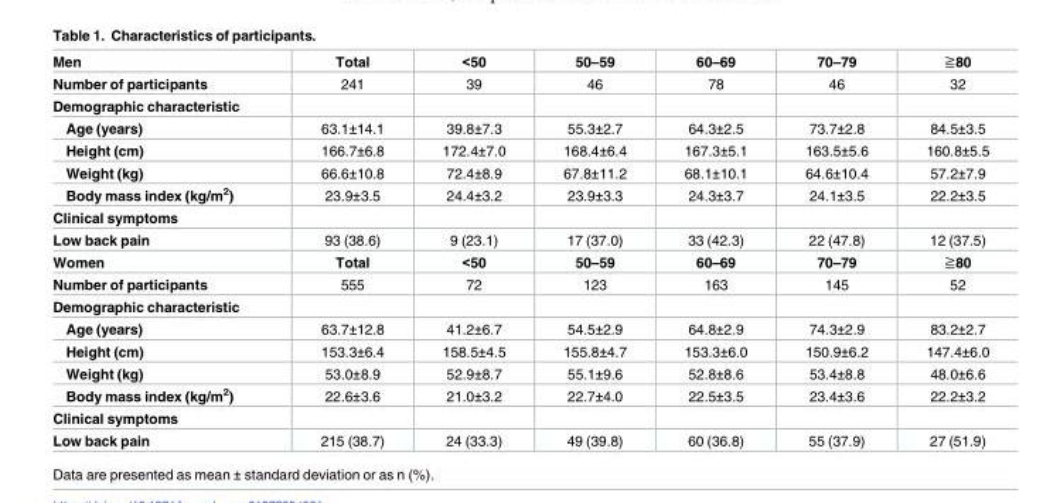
<table><tbody><tr><td>Men</td><td>Total</td><td>&lt;50</td><td>50–59</td><td>60–69</td><td>70–79</td><td>≧80</td></tr><tr><td>Number of participants</td><td>241</td><td>39</td><td>46</td><td>78</td><td>46</td><td>32</td></tr><tr><td colspan="7">Demographic characteristic</td></tr><tr><td>Age (years)</td><td>63.1±14.1</td><td>39.8±7.3</td><td>55.3±2.7</td><td>64.3±2.5</td><td>73.7±2.8</td><td>84.5±3.5</td></tr><tr><td>Height (cm)</td><td>166.7±6.8</td><td>172.4±7.0</td><td>168.4±6.4</td><td>167.3±5.1</td><td>163.5±5.6</td><td>160.8±5.5</td></tr><tr><td>Weight (kg)</td><td>66.6±10.8</td><td>72.4±8.9</td><td>67.8±11.2</td><td>68.1±10.1</td><td>64.6±10.4</td><td>57.2±7.9</td></tr><tr><td>Body mass index (kg/m<sup>2</sup>)</td><td>23.9±3.5</td><td>24.4±3.2</td><td>23.9±3.3</td><td>24.3±3.7</td><td>24.1±3.5</td><td>22.2±3.5</td></tr><tr><td colspan="7">Clinical symptoms</td></tr><tr><td>Low back pain</td><td>93 (38.6)</td><td>9 (23.1)</td><td>17 (37.0)</td><td>33 (42.3)</td><td>22 (47.8)</td><td>12 (37.5)</td></tr><tr><td>Women</td><td>Total</td><td>&lt;50</td><td>50–59</td><td>60–69</td><td>70–79</td><td>≧80</td></tr><tr><td>Number of participants</td><td>555</td><td>72</td><td>123</td><td>163</td><td>145</td><td>52</td></tr><tr><td colspan="7">Demographic characteristic</td></tr><tr><td>Age (years)</td><td>63.7±12.8</td><td>41.2±6.7</td><td>54.5±2.9</td><td>64.8±2.9</td><td>74.3±2.9</td><td>83.2±2.7</td></tr><tr><td>Height (cm)</td><td>153.3±6.4</td><td>158.5±4.5</td><td>155.8±4.7</td><td>153.3±6.0</td><td>150.9±6.2</td><td>147.4±6.0</td></tr><tr><td>Weight (kg)</td><td>53.0±8.9</td><td>52.9±8.7</td><td>55.1±9.6</td><td>52.8±8.6</td><td>53.4±8.8</td><td>48.0±6.6</td></tr><tr><td>Body mass index (kg/m<sup>2</sup>)</td><td>22.6±3.6</td><td>21.0±3.2</td><td>22.7±4.0</td><td>22.5±3.5</td><td>23.4±3.6</td><td>22.2±3.2</td></tr><tr><td colspan="7">Clinical symptoms</td></tr><tr><td>Low back pain</td><td>215 (38.7)</td><td>24 (33.3)</td><td>49 (39.8)</td><td>60 (36.8)</td><td>55 (37.9)</td><td>27 (51.9)</td></tr></tbody></table>